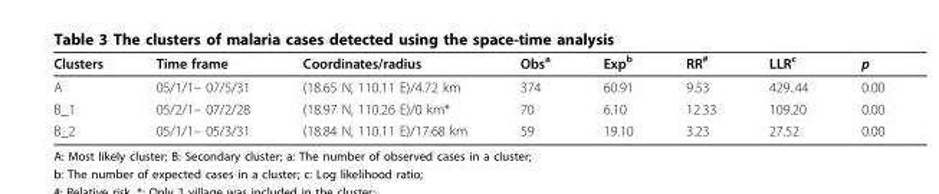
<table><thead><tr><td>Clusters</td><td>Time frame</td><td>Coordinates/radius</td><td>Obs<sup>a</sup></td><td>Exp<sup>b</sup></td><td>RR<sup>#</sup></td><td>LLR<sup>c</sup></td><td>p</td></tr></thead><tbody><tr><td>A</td><td>05/1/1– 07/5/31</td><td>(18.65 N, 110.11 E)/4.72 km</td><td>374</td><td>60.91</td><td>9.53</td><td>429..44</td><td>0.00</td></tr><tr><td>B_1</td><td>05/2/1– 07/2/28</td><td>(18.97 N, 110.26 E)/0 km*</td><td>70</td><td>6.10</td><td>12.33</td><td>109.20</td><td>0.00</td></tr><tr><td>B_2</td><td>05/1/1– 05/3/31</td><td>(18.84 N, 110.11 E)/17.68 km</td><td>59</td><td>19.10</td><td>3.23</td><td>27.52</td><td>0.00</td></tr></tbody></table>